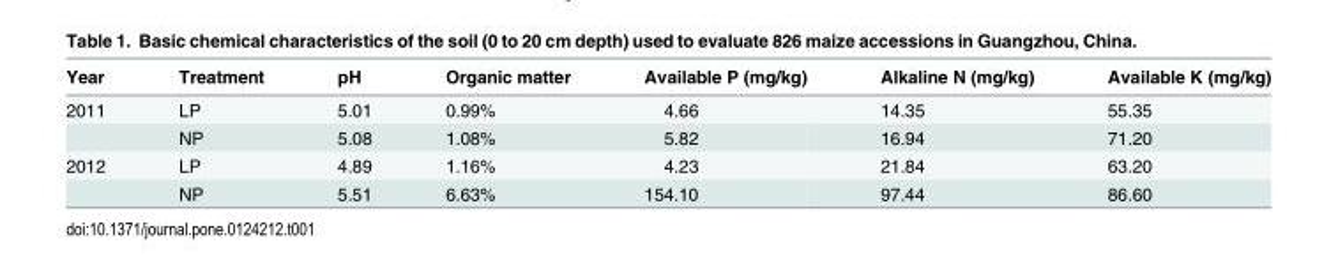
<table><thead><tr><td>Year</td><td>Treatment</td><td>pH</td><td>Organic matter</td><td>Available P (mg/kg)</td><td>Alkaline N (mg/kg)</td><td>Available K (mg/kg)</td></tr></thead><tbody><tr><td rowspan="2">2011</td><td>LP</td><td>5.01</td><td>0.99%</td><td>4.66</td><td>14.35</td><td>55.35</td></tr><tr><td>NP</td><td>5.08</td><td>1.08%</td><td>5.82</td><td>16.94</td><td>71.20</td></tr><tr><td rowspan="2">2012</td><td>LP</td><td>4.89</td><td>1.16%</td><td>4.23</td><td>21.84</td><td>63.20</td></tr><tr><td>NP</td><td>5.51</td><td>6.63%</td><td>154.10</td><td>97.44</td><td>86.60</td></tr></tbody></table>